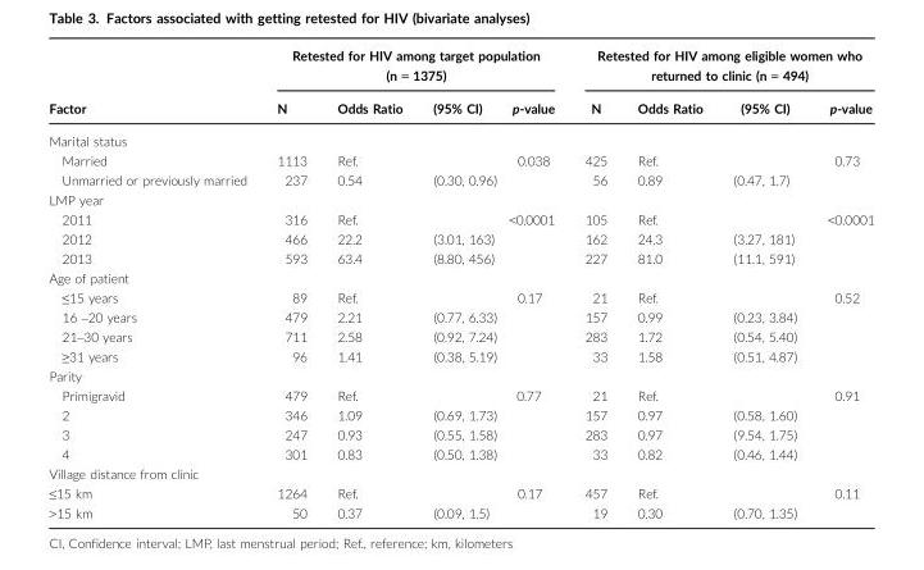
<table><thead><tr><td rowspan="2">Factor</td><td colspan="4">Retested for HIV among target population (n = 1375)</td><td colspan="4">Retested for HIV among eligible women who returned to clinic (n = 494)</td></tr><tr><td>N</td><td>Odds Ratio</td><td>(95% CI)</td><td>p-value</td><td>N</td><td>Odds Ratio</td><td>(95% CI)</td><td>p-value</td></tr></thead><tbody><tr><td colspan="9">Marital status</td></tr><tr><td>Married</td><td>1113</td><td>Ref.</td><td></td><td>0.038</td><td>425</td><td>Ref.</td><td></td><td>0.73</td></tr><tr><td>Unmarried or previously married</td><td>237</td><td>0.54</td><td>(0.30, 0.96)</td><td></td><td>56</td><td>0.89</td><td>(0.47, 1.7)</td><td></td></tr><tr><td colspan="9">LMP year</td></tr><tr><td>2011</td><td>316</td><td>Ref.</td><td></td><td>&lt;0.0001</td><td>105</td><td>Ref.</td><td></td><td>&lt;0.0001</td></tr><tr><td>2012</td><td>466</td><td>22.2</td><td>(3.01, 163)</td><td></td><td>162</td><td>24.3</td><td>(3.27, 181)</td><td></td></tr><tr><td>2013</td><td>593</td><td>63.4</td><td>(8.80, 456)</td><td></td><td>227</td><td>81.0</td><td>(11.1, 591)</td><td></td></tr><tr><td colspan="9">Age of patient</td></tr><tr><td>≤15 years</td><td>89</td><td>Ref.</td><td></td><td>0.17</td><td>21</td><td>Ref.</td><td></td><td>0.52</td></tr><tr><td>16 –20 years</td><td>479</td><td>2.21</td><td>(0.77, 6.33)</td><td></td><td>157</td><td>0.99</td><td>(0.23, 3.84)</td><td></td></tr><tr><td>21–30 years</td><td>711</td><td>2.58</td><td>(0.92, 7.24)</td><td></td><td>283</td><td>1.72</td><td>(0.54, 5.40)</td><td></td></tr><tr><td>≥31 years</td><td>96</td><td>1.41</td><td>(0.38, 5.19)</td><td></td><td>33</td><td>1.58</td><td>(0.51, 4.87)</td><td></td></tr><tr><td colspan="9">Parity</td></tr><tr><td>Primigravid</td><td>479</td><td>Ref.</td><td></td><td>0.77</td><td>21</td><td>Ref.</td><td></td><td>0.91</td></tr><tr><td>2</td><td>346</td><td>1.09</td><td>(0.69, 1.73)</td><td></td><td>157</td><td>0.97</td><td>(0.58, 1.60)</td><td></td></tr><tr><td>3</td><td>247</td><td>0.93</td><td>(0.55, 1.58)</td><td></td><td>283</td><td>0.97</td><td>(9.54, 1.75)</td><td></td></tr><tr><td>4</td><td>301</td><td>0.83</td><td>(0.50, 1.38)</td><td></td><td>33</td><td>0.82</td><td>(0.46, 1.44)</td><td></td></tr><tr><td colspan="9">Village distance from clinic</td></tr><tr><td>≤15 km</td><td>1264</td><td>Ref.</td><td></td><td>0.17</td><td>457</td><td>Ref.</td><td></td><td>0.11</td></tr><tr><td>&gt;15 km</td><td>50</td><td>0.37</td><td>(0.09, 1.5)</td><td></td><td>19</td><td>0.30</td><td>(0.70, 1.35)</td><td></td></tr></tbody></table>